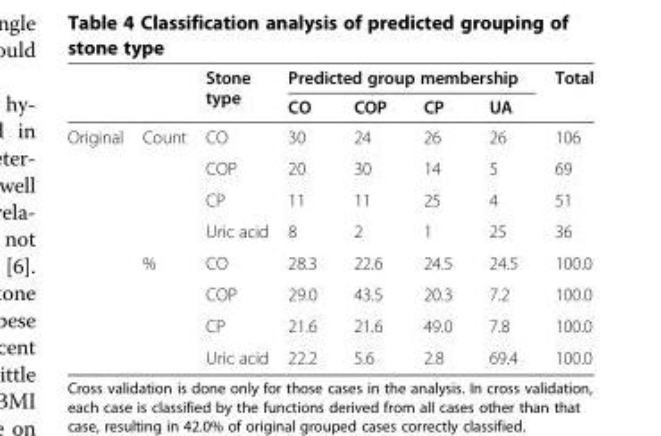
<table><thead><tr><td rowspan="2"></td><td rowspan="2"></td><td rowspan="2">Stone type</td><td colspan="4">Predicted group membership</td><td rowspan="2">Total</td></tr><tr><td>CO</td><td>COP</td><td>CP</td><td>UA</td></tr></thead><tbody><tr><td rowspan="8">Original</td><td rowspan="4">Count</td><td>CO</td><td>30</td><td>24</td><td>26</td><td>26</td><td>106</td></tr><tr><td>COP</td><td>20</td><td>30</td><td>14</td><td>5</td><td>69</td></tr><tr><td>CP</td><td>11</td><td>11</td><td>25</td><td>4</td><td>51</td></tr><tr><td>Uric acid</td><td>8</td><td>2</td><td>1</td><td>25</td><td>36</td></tr><tr><td rowspan="4">%</td><td>CO</td><td>28.3</td><td>22.6</td><td>24.5</td><td>24.5</td><td>100.0</td></tr><tr><td>COP</td><td>29.0</td><td>43.5</td><td>20.3</td><td>7.2</td><td>100.0</td></tr><tr><td>CP</td><td>21.6</td><td>21.6</td><td>49.0</td><td>7.8</td><td>100.0</td></tr><tr><td>Uric acid</td><td>22.2</td><td>5.6</td><td>2.8</td><td>69.4</td><td>100.0</td></tr></tbody></table>